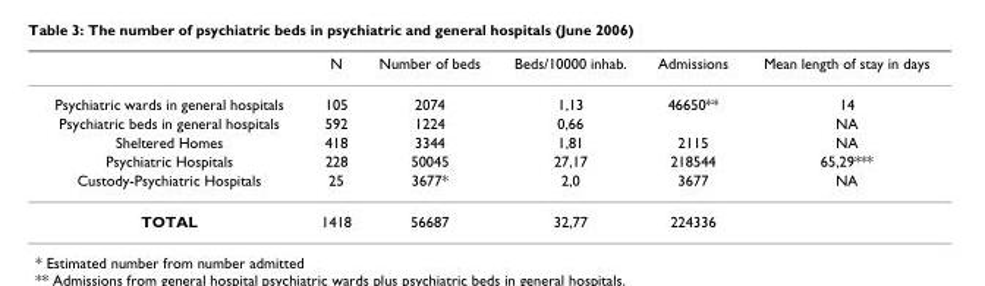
<table><thead><tr><td></td><td>N</td><td>Number of beds</td><td>Beds/10000 inhab.</td><td>Admissions</td><td>Mean length of stay in days</td></tr></thead><tbody><tr><td>Psychiatric wards in general hospitals</td><td>105</td><td>2074</td><td>1,13</td><td>46650**</td><td>14</td></tr><tr><td>Psychiatric beds in general hospitals</td><td>592</td><td>1224</td><td>0,66</td><td></td><td>NA</td></tr><tr><td>Sheltered Homes</td><td>418</td><td>3344</td><td>1,81</td><td>2115</td><td>NA</td></tr><tr><td>Psychiatric Hospitals</td><td>228</td><td>50045</td><td>27,17</td><td>218544</td><td>65,29***</td></tr><tr><td>Custody-Psychiatric Hospitals</td><td>25</td><td>3677*</td><td>2,0</td><td>3677</td><td>NA</td></tr><tr><td>TOTAL</td><td>1418</td><td>56687</td><td>32,77</td><td>224336</td><td></td></tr></tbody></table>